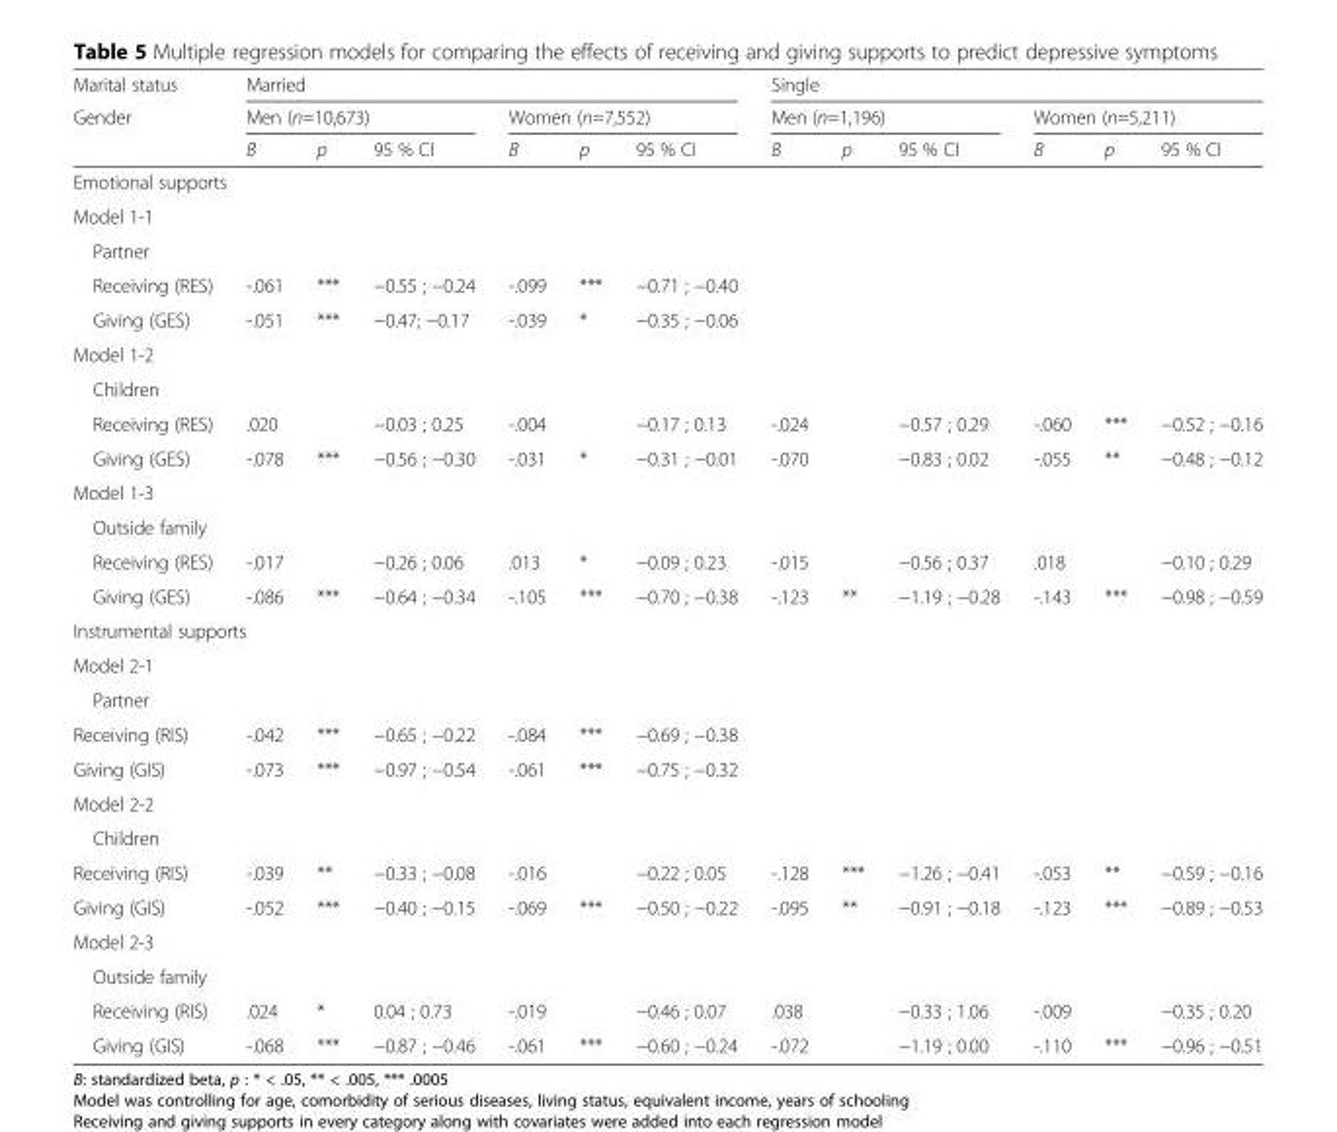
<table><thead><tr><td rowspan="3">Marital status Gender</td><td colspan="6">Married</td><td colspan="6">Single</td></tr><tr><td colspan="3">Men (n=10,673)</td><td colspan="3">Women (n=7,552)</td><td colspan="3">Men (n=1,196)</td><td colspan="3">Women (n=5,211)</td></tr><tr><td>B</td><td>p</td><td>95 % CI</td><td>B</td><td>p</td><td>95 % CI</td><td>B</td><td>p</td><td>95 % CI</td><td>B</td><td>p</td><td>95 % CI</td></tr></thead><tbody><tr><td colspan="13">Emotional supports</td></tr><tr><td colspan="13">Model 1-1</td></tr><tr><td colspan="13">Partner</td></tr><tr><td>Receiving (RES)</td><td>-.061</td><td>***</td><td>−0.55 ; −0.24</td><td>-.099</td><td>***</td><td>−0.71 ; −0.40</td><td></td><td></td><td></td><td></td><td></td><td></td></tr><tr><td>Giving (GES)</td><td>-.051</td><td>***</td><td>−0.47; −0.17</td><td>-.039</td><td>*</td><td>−0.35 ; −0.06</td><td></td><td></td><td></td><td></td><td></td><td></td></tr><tr><td colspan="13">Model 1-2</td></tr><tr><td colspan="13">Children</td></tr><tr><td>Receiving (RES)</td><td>.020</td><td></td><td>−0.03 ; 0.25</td><td>-.004</td><td></td><td>−0.17 ; 0.13</td><td>-.024</td><td></td><td>−0.57 ; 0.29</td><td>-.060</td><td>***</td><td>−0.52 ; −0.16</td></tr><tr><td>Giving (GES)</td><td>-.078</td><td>***</td><td>−0.56 ; −0.30</td><td>-.031</td><td>*</td><td>−0.31 ; −0.01</td><td>-.070</td><td></td><td>−0.83 ; 0.02</td><td>-.055</td><td>**</td><td>−0.48 ; −0.12</td></tr><tr><td colspan="13">Model 1-3</td></tr><tr><td colspan="13">Outside family</td></tr><tr><td>Receiving (RES)</td><td>-.017</td><td></td><td>−0.26 ; 0.06</td><td>.013</td><td>*</td><td>−0.09 ; 0.23</td><td>-.015</td><td></td><td>−0.56 ; 0.37</td><td>.018</td><td></td><td>−0.10 ; 0.29</td></tr><tr><td>Giving (GES)</td><td>-.086</td><td>***</td><td>−0.64 ; −0.34</td><td>-.105</td><td>***</td><td>−0.70 ; −0.38</td><td>-.123</td><td>**</td><td>−1.19 ; −0.28</td><td>-.143</td><td>***</td><td>−0.98 ; −0.59</td></tr><tr><td colspan="13">Instrumental supports</td></tr><tr><td colspan="13">Model 2-1</td></tr><tr><td colspan="13">Partner</td></tr><tr><td>Receiving (RIS)</td><td>-.042</td><td>***</td><td>−0.65 ; −0.22</td><td>-.084</td><td>***</td><td>−0.69 ; −0.38</td><td></td><td></td><td></td><td></td><td></td><td></td></tr><tr><td>Giving (GIS)</td><td>-.073</td><td>***</td><td>−0.97 ; −0.54</td><td>-.061</td><td>***</td><td>−0.75 ; −0.32</td><td></td><td></td><td></td><td></td><td></td><td></td></tr><tr><td colspan="13">Model 2-2</td></tr><tr><td colspan="13">Children</td></tr><tr><td>Receiving (RIS)</td><td>-.039</td><td>**</td><td>−0.33 ; −0.08</td><td>-.016</td><td></td><td>−0.22 ; 0.05</td><td>-.128</td><td>***</td><td>−1.26 ; −0.41</td><td>-.053</td><td>**</td><td>−0.59 ; −0.16</td></tr><tr><td>Giving (GIS)</td><td>-.052</td><td>***</td><td>−0.40 ; −0.15</td><td>-.069</td><td>***</td><td>−0.50 ; −0.22</td><td>-.095</td><td>**</td><td>−0.91 ; −0.18</td><td>-.123</td><td>***</td><td>−0.89 ; −0.53</td></tr><tr><td colspan="13">Model 2-3</td></tr><tr><td colspan="13">Outside family</td></tr><tr><td>Receiving (RIS)</td><td>.024</td><td>*</td><td>0.04 ; 0.73</td><td>-.019</td><td></td><td>−0.46 ; 0.07</td><td>.038</td><td></td><td>−0.33 ; 1.06</td><td>-.009</td><td></td><td>−0.35 ; 0.20</td></tr><tr><td>Giving (GIS)</td><td>-.068</td><td>***</td><td>−0.87 ; −0.46</td><td>-.061</td><td>***</td><td>−0.60 ; −0.24</td><td>-.072</td><td></td><td>−1.19 ; 0.00</td><td>-.110</td><td>***</td><td>−0.96 ; −0.51</td></tr></tbody></table>